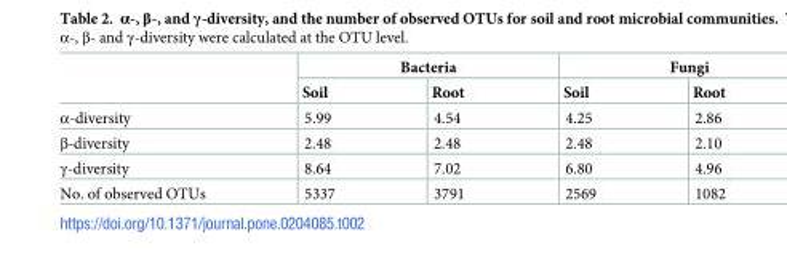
<table><thead><tr><td rowspan="2"></td><td colspan="2">Bacteria</td><td colspan="2">Fungi</td></tr><tr><td>Soil</td><td>Root</td><td>Soil</td><td>Root</td></tr></thead><tbody><tr><td>α-diversity</td><td>5.99</td><td>4.54</td><td>4.25</td><td>2.86</td></tr><tr><td>β-diversity</td><td>2.48</td><td>2.48</td><td>2.48</td><td>2.10</td></tr><tr><td>γ-diversity</td><td>8.64</td><td>7.02</td><td>6.80</td><td>4.96</td></tr><tr><td>No. of observed OTUs</td><td>5337</td><td>3791</td><td>2569</td><td>1082</td></tr></tbody></table>